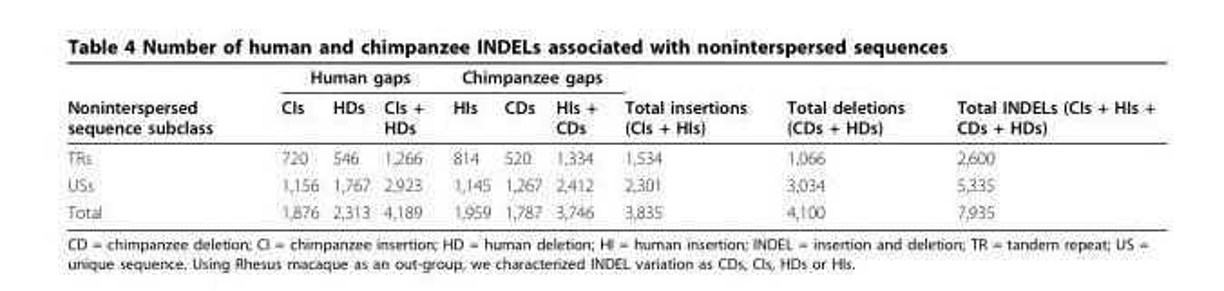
<table><thead><tr><td rowspan="2">Noninterspersed sequence subclass</td><td colspan="3">Human gaps</td><td colspan="3">Chimpanzee gaps</td><td rowspan="2">Total insertions (CIs + HIs)</td><td rowspan="2">Total deletions (CDs + HDs)</td><td rowspan="2">Total INDELs (CIs + HIs + CDs + HDs)</td></tr><tr><td>CIs</td><td>HDs</td><td>CIs + HDs</td><td>HIs</td><td>CDs</td><td>HIs + CDs</td></tr></thead><tbody><tr><td>TRs</td><td>720</td><td>546</td><td>1,266</td><td>814</td><td>520</td><td>1,334</td><td>1,534</td><td>1,066</td><td>2,600</td></tr><tr><td>USs</td><td>1,156</td><td>1,767</td><td>2,923</td><td>1,145</td><td>1,267</td><td>2,412</td><td>2,301</td><td>3,034</td><td>5,335</td></tr><tr><td>Total</td><td>1,876</td><td>2,313</td><td>4,189</td><td>1,959</td><td>1,787</td><td>3,746</td><td>3,835</td><td>4,100</td><td>7,935</td></tr></tbody></table>